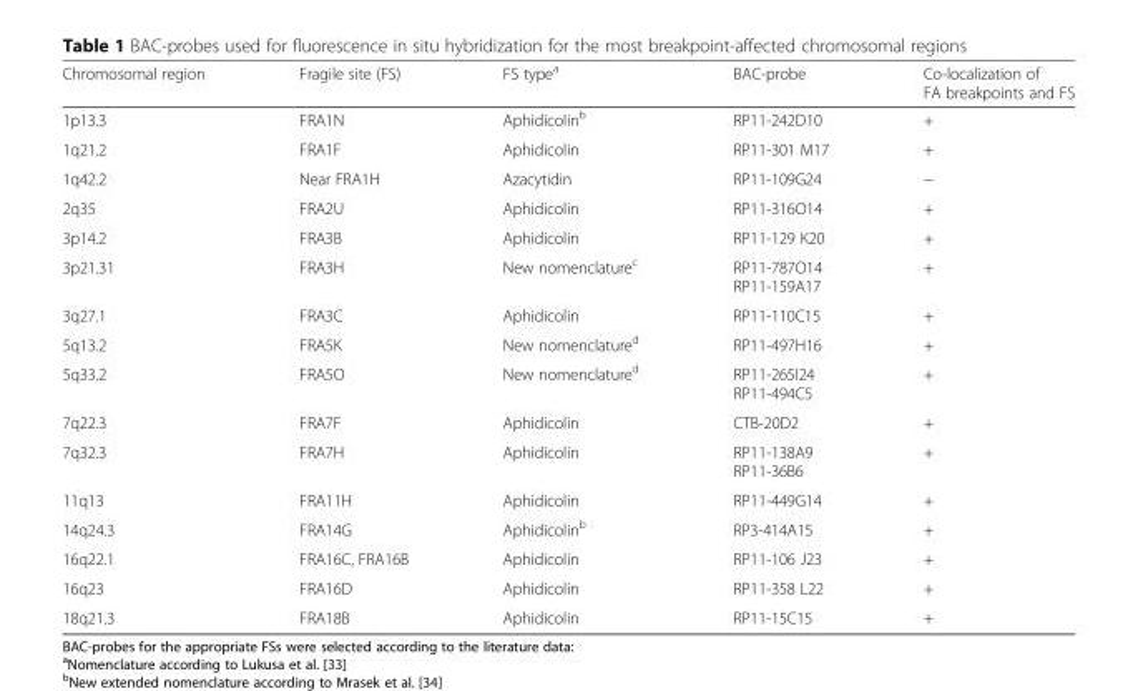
<table><thead><tr><td>Chromosomal region</td><td>Fragile site (FS)</td><td>FS type<sup>a</sup></td><td>BAC-probe</td><td>Co-localization of FA breakpoints and FS</td></tr></thead><tbody><tr><td>1p13.3</td><td>FRA1N</td><td>Aphidicolin<sup>b</sup></td><td>RP11-242D10</td><td>+</td></tr><tr><td>1q21.2</td><td>FRA1F</td><td>Aphidicolin</td><td>RP11-301 M17</td><td>+</td></tr><tr><td>1q42.2</td><td>Near FRA1H</td><td>Azacytidin</td><td>RP11-109G24</td><td>−</td></tr><tr><td>2q35</td><td>FRA2U</td><td>Aphidicolin</td><td>RP11-316O14</td><td>+</td></tr><tr><td>3p14.2</td><td>FRA3B</td><td>Aphidicolin</td><td>RP11-129 K20</td><td>+</td></tr><tr><td>3p21.31</td><td>FRA3H</td><td>New nomenclature<sup>c</sup></td><td>RP11-787O14 RP11-159A17</td><td>+</td></tr><tr><td>3q27.1</td><td>FRA3C</td><td>Aphidicolin</td><td>RP11-110C15</td><td>+</td></tr><tr><td>5q13.2</td><td>FRA5K</td><td>New nomenclature<sup>d</sup></td><td>RP11-497H16</td><td>+</td></tr><tr><td>5q33.2</td><td>FRA5O</td><td>New nomenclature<sup>d</sup></td><td>RP11-265I24 RP11-494C5</td><td>+</td></tr><tr><td>7q22.3</td><td>FRA7F</td><td>Aphidicolin</td><td>CTB-20D2</td><td>+</td></tr><tr><td>7q32.3</td><td>FRA7H</td><td>Aphidicolin</td><td>RP11-138A9 RP11-36B6</td><td>+</td></tr><tr><td>11q13</td><td>FRA11H</td><td>Aphidicolin</td><td>RP11-449G14</td><td>+</td></tr><tr><td>14q24.3</td><td>FRA14G</td><td>Aphidicolin<sup>b</sup></td><td>RP3-414A15</td><td>+</td></tr><tr><td>16q22.1</td><td>FRA16C, FRA16B</td><td>Aphidicolin</td><td>RP11-106 J23</td><td>+</td></tr><tr><td>16q23</td><td>FRA16D</td><td>Aphidicolin</td><td>RP11-358 L22</td><td>+</td></tr><tr><td>18q21.3</td><td>FRA18B</td><td>Aphidicolin</td><td>RP11-15C15</td><td>+</td></tr></tbody></table>